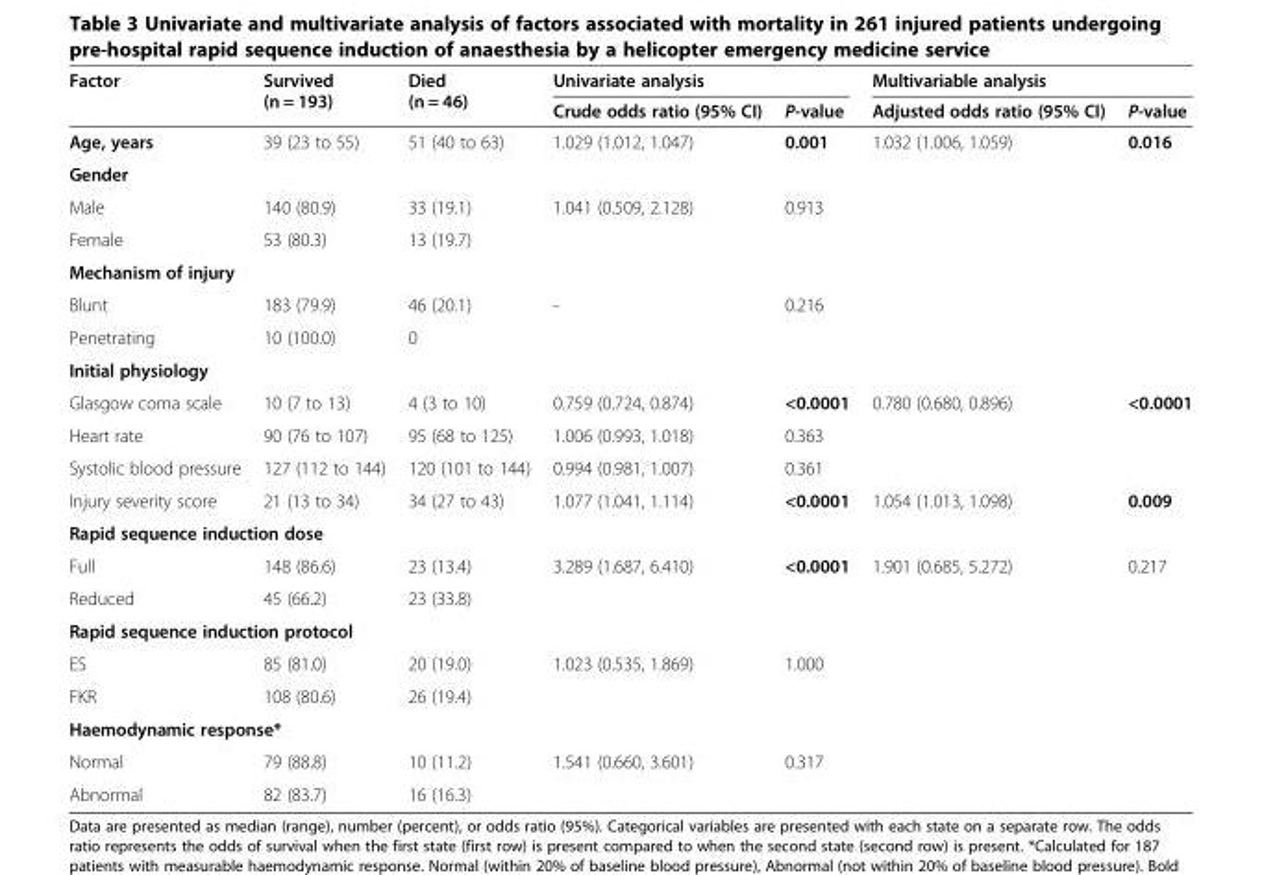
<table><thead><tr><td rowspan="2">Factor</td><td rowspan="2">Survived (n = 193)</td><td rowspan="2">Died (n = 46)</td><td colspan="2">Univariate analysis</td><td colspan="2">Multivariable analysis</td></tr><tr><td>Crude odds ratio (95% CI)</td><td>P-value</td><td>Adjusted odds ratio (95% CI)</td><td>P-value</td></tr></thead><tbody><tr><td>Age, years</td><td>39 (23 to 55)</td><td>51 (40 to 63)</td><td>1.029 (1.012, 1.047)</td><td>0.001</td><td>1.032 (1.006, 1.059)</td><td>0.016</td></tr><tr><td colspan="7">Gender</td></tr><tr><td>Male</td><td>140 (80.9)</td><td>33 (19.1)</td><td rowspan="2">1.041 (0.509, 2.128)</td><td rowspan="2">0.913</td><td></td><td></td></tr><tr><td>Female</td><td>53 (80.3)</td><td>13 (19.7)</td><td></td><td></td></tr><tr><td colspan="7">Mechanism of injury</td></tr><tr><td>Blunt</td><td>183 (79.9)</td><td>46 (20.1)</td><td rowspan="2">-</td><td rowspan="2">0.216</td><td></td><td></td></tr><tr><td>Penetrating</td><td>10 (100.0)</td><td>0</td><td></td><td></td></tr><tr><td colspan="7">Initial physiology</td></tr><tr><td>Glasgow coma scale</td><td>10 (7 to 13)</td><td>4 (3 to 10)</td><td>0.759 (0.724, 0.874)</td><td>&lt;0.0001</td><td>0.780 (0.680, 0.896)</td><td>&lt;0.0001</td></tr><tr><td>Heart rate</td><td>90 (76 to 107)</td><td>95 (68 to 125)</td><td>1.006 (0.993, 1.018)</td><td>0.363</td><td></td><td></td></tr><tr><td>Systolic blood pressure</td><td>127 (112 to 144)</td><td>120 (101 to 144)</td><td>0.994 (0.981, 1.007)</td><td>0.361</td><td></td><td></td></tr><tr><td>Injury severity score</td><td>21 (13 to 34)</td><td>34 (27 to 43)</td><td>1.077 (1.041, 1.114)</td><td>&lt;0.0001</td><td>1.054 (1.013, 1.098)</td><td>0.009</td></tr><tr><td colspan="7">Rapid sequence induction dose</td></tr><tr><td>Full</td><td>148 (86.6)</td><td>23 (13.4)</td><td rowspan="2">3.289 (1.687, 6.410)</td><td rowspan="2">&lt;0.0001</td><td rowspan="2">1.901 (0.685, 5.272)</td><td rowspan="2">0.217</td></tr><tr><td>Reduced</td><td>45 (66.2)</td><td>23 (33.8)</td></tr><tr><td colspan="7">Rapid sequence induction protocol</td></tr><tr><td>ES</td><td>85 (81.0)</td><td>20 (19.0)</td><td rowspan="2">1.023 (0.535, 1.869)</td><td rowspan="2">1.000</td><td></td><td></td></tr><tr><td>FKR</td><td>108 (80.6)</td><td>26 (19.4)</td><td></td><td></td></tr><tr><td colspan="7">Haemodynamic response*</td></tr><tr><td>Normal</td><td>79 (88.8)</td><td>10 (11.2)</td><td rowspan="2">1.541 (0.660, 3.601)</td><td rowspan="2">0.317</td><td></td><td></td></tr><tr><td>Abnormal</td><td>82 (83.7)</td><td>16 (16.3)</td><td></td><td></td></tr></tbody></table>